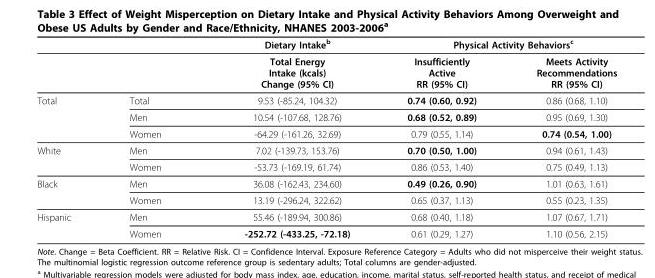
<table><thead><tr><td rowspan="2"></td><td rowspan="2"></td><td rowspan="2">Dietary Intakeb Total Energy Intake (kcals) Change (95% CI)</td><td colspan="2">Physical Activity Behaviorsc</td></tr><tr><td>Insufficiently Active RR (95% CI)</td><td>Meets Activity Recommendations RR (95% CI)</td></tr></thead><tbody><tr><td rowspan="3">Total</td><td>Total</td><td>9.53 (-85.24, 104.32)</td><td>0.74 (0.60, 0.92)</td><td>0.86 (0.68, 1.10)</td></tr><tr><td>Men</td><td>10.54 (-107.68, 128.76)</td><td>0.68 (0.52, 0.89)</td><td>0.95 (0.69, 1.30)</td></tr><tr><td>Women</td><td>-64.29 (-161.26, 32.69)</td><td>0.79 (0.55, 1.14)</td><td>0.74 (0.54, 1.00)</td></tr><tr><td rowspan="2">White</td><td>Men</td><td>7.02 (-139.73, 153.76)</td><td>0.70 (0.50, 1.00)</td><td>0.94 (0.61, 1.43)</td></tr><tr><td>Women</td><td>-53.73 (-169.19, 61.74)</td><td>0.86 (0.53, 1.40)</td><td>0.75 (0.49, 1.13)</td></tr><tr><td rowspan="2">Black</td><td>Men</td><td>36.08 (-162.43, 234.60)</td><td>0.49 (0.26, 0.90)</td><td>1.01 (0.63, 1.61)</td></tr><tr><td>Women</td><td>13.19 (-296.24, 322.62)</td><td>0.65 (0.37, 1.13)</td><td>0.55 (0.23, 1.35)</td></tr><tr><td rowspan="2">Hispanic</td><td>Men</td><td>55.46 (-189.94, 300.86)</td><td>0.68 (0.40, 1.18)</td><td>1.07 (0.67, 1.71)</td></tr><tr><td>Women</td><td>-252.72 (-433.25, -72.18)</td><td>0.61 (0.29, 1.27)</td><td>1.10 (0.56, 2.15)</td></tr></tbody></table>